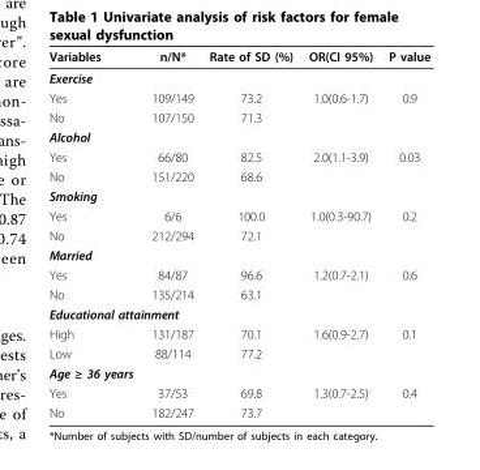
<table><thead><tr><td>Variables</td><td>n/N*</td><td>Rate of SD (%)</td><td>OR(CI 95%)</td><td>P value</td></tr></thead><tbody><tr><td colspan="5">Exercise</td></tr><tr><td>Yes</td><td>109/149</td><td>73.2</td><td>1.0(0.6-1.7)</td><td>0.9</td></tr><tr><td>No</td><td>107/150</td><td>71.3</td><td></td><td></td></tr><tr><td colspan="5">Alcohol</td></tr><tr><td>Yes</td><td>66/80</td><td>82.5</td><td>2.0(1.1-3.9)</td><td>0.03</td></tr><tr><td>No</td><td>151/220</td><td>68.6</td><td></td><td></td></tr><tr><td colspan="5">Smoking</td></tr><tr><td>Yes</td><td>6/6</td><td>100.0</td><td>1.0(0.3-90.7)</td><td>0.2</td></tr><tr><td>No</td><td>212/294</td><td>72.1</td><td></td><td></td></tr><tr><td colspan="5">Married</td></tr><tr><td>Yes</td><td>84/87</td><td>96.6</td><td>1.2(0.7-2.1)</td><td>0.6</td></tr><tr><td>No</td><td>135/214</td><td>63.1</td><td></td><td></td></tr><tr><td colspan="5">Educational attainment</td></tr><tr><td>High</td><td>131/187</td><td>70.1</td><td>1.6(0.9-2.7)</td><td>0.1</td></tr><tr><td>Low</td><td>88/114</td><td>77.2</td><td></td><td></td></tr><tr><td colspan="5">Age ≥ 36 years</td></tr><tr><td>Yes</td><td>37/53</td><td>69.8</td><td>1.3(0.7-2.5)</td><td>0.4</td></tr><tr><td>No</td><td>182/247</td><td>73.7</td><td></td><td></td></tr></tbody></table>